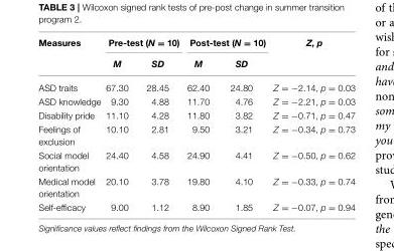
<table><thead><tr><td rowspan="2">Measures</td><td colspan="2">Pre-test (N = 10)</td><td colspan="2">Post-test (N = 10)</td><td rowspan="2">Z, p</td></tr><tr><td>M</td><td>SD</td><td>M</td><td>SD</td></tr></thead><tbody><tr><td>ASD traits</td><td>67.30</td><td>28.45</td><td>62.40</td><td>24.80</td><td>Z = −2.14, p = 0.03</td></tr><tr><td>ASD knowledge</td><td>9.30</td><td>4.88</td><td>11.70</td><td>4.76</td><td>Z = −2.21, p = 0.03</td></tr><tr><td>Disability pride</td><td>11.10</td><td>4.28</td><td>11.80</td><td>3.82</td><td>Z = −0.71, p = 0.47</td></tr><tr><td>Feelings of exclusion</td><td>10.10</td><td>2.81</td><td>9.50</td><td>3.21</td><td>Z = −0.34, p = 0.73</td></tr><tr><td>Social model orientation</td><td>24.40</td><td>4.58</td><td>24.90</td><td>4.41</td><td>Z = −0.50, p = 0.62</td></tr><tr><td>Medical model orientation</td><td>20.10</td><td>3.78</td><td>19.80</td><td>4.10</td><td>Z = −0.33, p = 0.74</td></tr><tr><td>Self-efficacy</td><td>9.00</td><td>1.12</td><td>8.90</td><td>1.85</td><td>Z = −0.07, p = 0.94</td></tr></tbody></table>